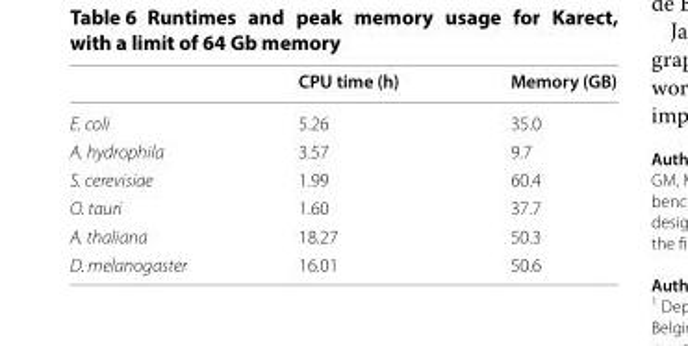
<table><thead><tr><td></td><td>CPU time (h)</td><td>Memory (GB)</td></tr></thead><tbody><tr><td>E. coli</td><td>5.26</td><td>35.0</td></tr><tr><td>A. hydrophila</td><td>3.57</td><td>9.7</td></tr><tr><td>S. cerevisiae</td><td>1.99</td><td>60.4</td></tr><tr><td>O. tauri</td><td>1.60</td><td>37.7</td></tr><tr><td>A. thaliana</td><td>18.27</td><td>50.3</td></tr><tr><td>D. melanogaster</td><td>16.01</td><td>50.6</td></tr></tbody></table>